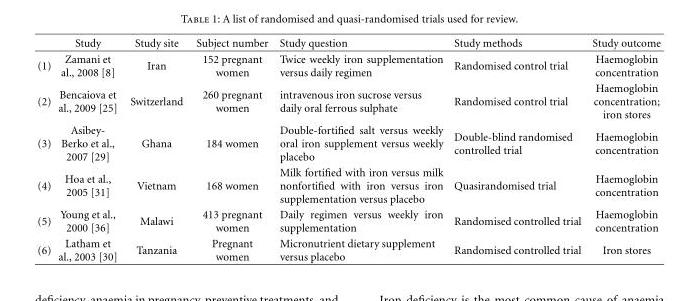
<table><thead><tr><td></td><td>Study</td><td>Study site</td><td>Subject number</td><td>Study question</td><td>Study methods</td><td>Study outcome</td></tr></thead><tbody><tr><td>(1)</td><td>Zamani et al., 2008 [8]</td><td>Iran</td><td>152 pregnant women</td><td>Twice weekly iron supplementation versus daily regimen</td><td>Randomised control trial</td><td>Haemoglobin concentration</td></tr><tr><td>(2)</td><td>Bencaiova et al., 2009 [25]</td><td>Switzerland</td><td>260 pregnant women</td><td>intravenous iron sucrose versus daily oral ferrous sulphate</td><td>Randomised control trial</td><td>Haemoglobin concentration; iron stores</td></tr><tr><td>(3)</td><td>Asibey- Berko et al., 2007 [29]</td><td>Ghana</td><td>184 women</td><td>Double-fortified salt versus weekly oral iron supplement versus weekly placebo</td><td>Double-blind randomised controlled trial</td><td>Haemoglobin concentration</td></tr><tr><td>(4)</td><td>Hoa et al., 2005 [31]</td><td>Vietnam</td><td>168 women</td><td>Milk fortified with iron versus milk nonfortified with iron versus iron supplementation versus placebo</td><td>Quasirandomised trial</td><td>Haemoglobin concentration</td></tr><tr><td>(5)</td><td>Young et al., 2000 [36]</td><td>Malawi</td><td>413 pregnant women</td><td>Daily regimen versus weekly iron supplementation</td><td>Randomised controlled trial</td><td>Haemoglobin concentration</td></tr><tr><td>(6)</td><td>Latham et al., 2003 [30]</td><td>Tanzania</td><td>Pregnant women</td><td>Micronutrient dietary supplement versus placebo</td><td>Randomised controlled trial</td><td>Iron stores</td></tr></tbody></table>